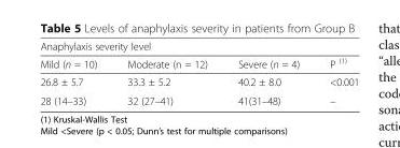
<table><thead><tr><td colspan="4">Anaphylaxis severity level</td></tr><tr><td>Mild (n = 10)</td><td>Moderate (n = 12)</td><td>Severe (n = 4)</td><td>P <sup>(1)</sup></td></tr></thead><tbody><tr><td>26.8 ± 5.7</td><td>33.3 ± 5.2</td><td>40.2 ± 8.0</td><td>&lt;0.001</td></tr><tr><td>28 (14–33)</td><td>32 (27–41)</td><td>41(31–48)</td><td>–</td></tr></tbody></table>